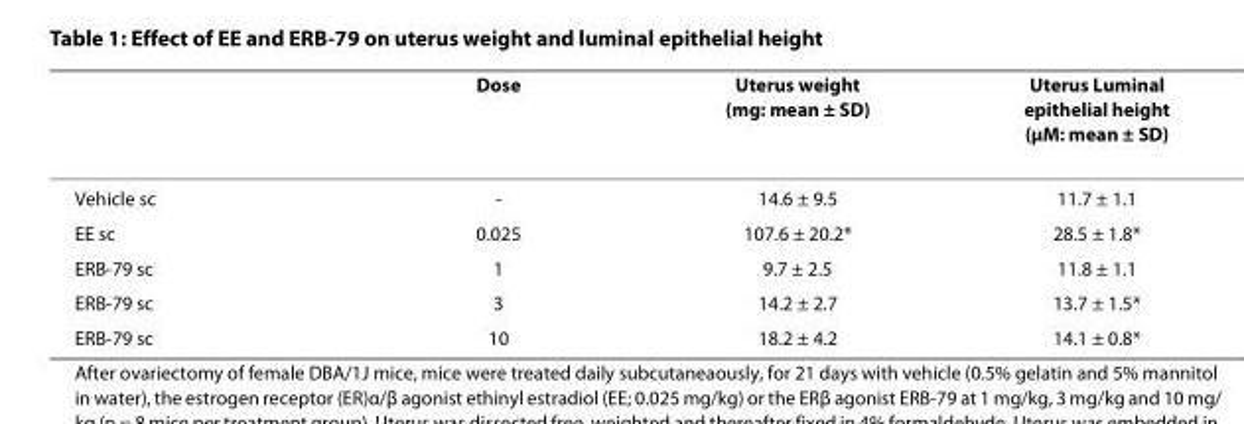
<table><thead><tr><td></td><td>Dose</td><td>Uterus weight (mg: mean ± SD)</td><td>Uterus Luminal epithelial height (μM: mean ± SD)</td></tr></thead><tbody><tr><td>Vehicle sc</td><td>-</td><td>14.6 ± 9.5</td><td>11.7 ± 1.1</td></tr><tr><td>EE sc</td><td>0.025</td><td>107.6 ± 20.2*</td><td>28.5 ± 1.8*</td></tr><tr><td>ERB-79 sc</td><td>1</td><td>9.7 ± 2.5</td><td>11.8 ± 1.1</td></tr><tr><td>ERB-79 sc</td><td>3</td><td>14.2 ± 2.7</td><td>13.7 ± 1.5*</td></tr><tr><td>ERB-79 sc</td><td>10</td><td>18.2 ± 4.2</td><td>14.1 ± 0.8*</td></tr></tbody></table>